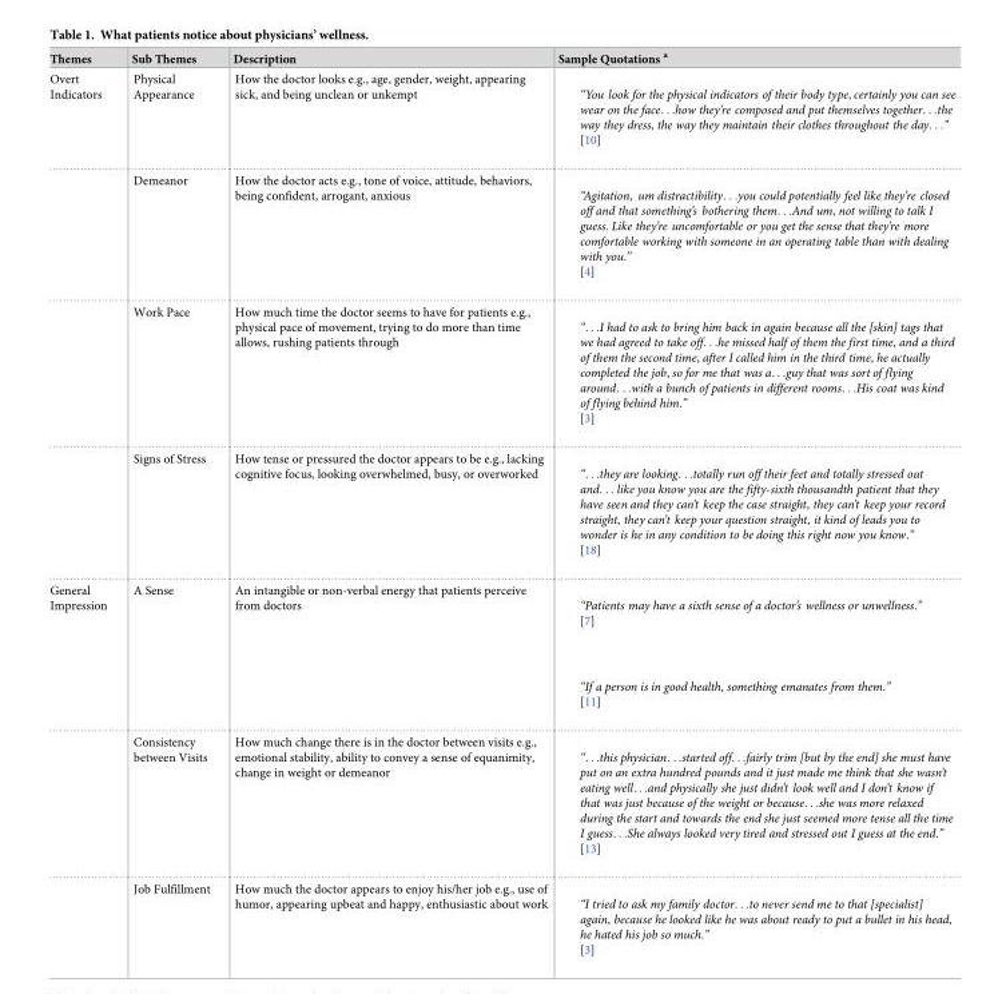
<table><thead><tr><td>Themes</td><td>Sub Themes</td><td>Description</td><td>Sample Quotations <sup>a</sup></td></tr></thead><tbody><tr><td rowspan="4">Overt Indicators</td><td>Physical Appearance</td><td>How the doctor looks e.g., age, gender, weight, appearing sick, and being unclean or unkempt</td><td>“You look for the physical indicators of their body type, certainly you can see wear on the face. . .how they’re composed and put themselves together. . .the way they dress, the way they maintain their clothes throughout the day. . .” [10]</td></tr><tr><td>Demeanor</td><td>How the doctor acts e.g., tone of voice, attitude, behaviors, being confident, arrogant, anxious</td><td>“Agitation, um distractibility. . .you could potentially feel like they’re closed off and that something’s bothering them. . .And um, not willing to talk I guess. Like they’re uncomfortable or you get the sense that they’re more comfortable working with someone in an operating table than with dealing with you.” [4]</td></tr><tr><td>Work Pace</td><td>How much time the doctor seems to have for patients e.g., physical pace of movement, trying to do more than time allows, rushing patients through</td><td>“. . .I had to ask to bring him back in again because all the [skin] tags that we had agreed to take off. . .he missed half of them the first time, and a third of them the second time, after I called him in the third time, he actually completed the job, so for me that was a. . .guy that was sort of flying around. . .with a bunch of patients in different rooms. . .His coat was kind of flying behind him.” [3]</td></tr><tr><td>Signs of Stress</td><td>How tense or pressured the doctor appears to be e.g., lacking cognitive focus, looking overwhelmed, busy, or overworked</td><td>“. . .they are looking. . .totally run off their feet and totally stressed out and. . . like you know you are the fifty-sixth thousandth patient that they have seen and they can’t keep the case straight, they can’t keep your record straight, they can’t keep your question straight, it kind of leads you to wonder is he in any condition to be doing this right now you know.” [18]</td></tr><tr><td rowspan="3">General Impression</td><td>A Sense</td><td>An intangible or non-verbal energy that patients perceive from doctors</td><td>“Patients may have a sixth sense of a doctor’s wellness or unwellness.” [7] “If a person is in good health, something emanates from them.” [11]</td></tr><tr><td>Consistency between Visits</td><td>How much change there is in the doctor between visits e.g., emotional stability, ability to convey a sense of equanimity, change in weight or demeanor</td><td>“. . .this physician. . .started off. . .fairly trim [but by the end] she must have put on an extra hundred pounds and it just made me think that she wasn’t eating well. . .and physically she just didn’t look well and I don’t know if that was just because of the weight or because. . .she was more relaxed during the start and towards the end she just seemed more tense all the time I guess. . .She always looked very tired and stressed out I guess at the end.” [13]</td></tr><tr><td>Job Fulfillment</td><td>How much the doctor appears to enjoy his/her job e.g., use of humor, appearing upbeat and happy, enthusiastic about work</td><td>“I tried to ask my family doctor. . .to never send me to that [specialist] again, because he looked like he was about ready to put a bullet in his head, he hated his job so much.”</td></tr></tbody></table>